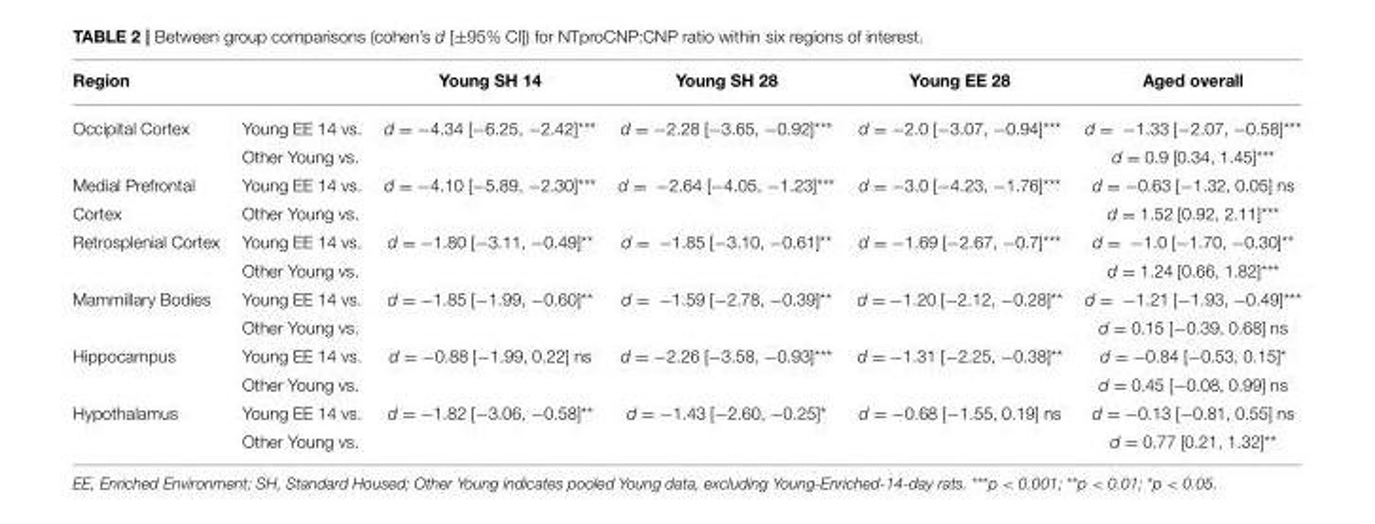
<table><thead><tr><td>Region</td><td></td><td>Young SH 14</td><td>Young SH 28</td><td>Young EE 28</td><td>Aged overall</td></tr></thead><tbody><tr><td rowspan="2">Occipital Cortex</td><td>Young EE 14 vs.</td><td>d = −4.34 [−6.25, −2.42]***</td><td>d = −2.28 [−3.65, −0.92]***</td><td>d = −2.0 [−3.07, −0.94]***</td><td>d = −1.33 [−2.07, −0.58]***</td></tr><tr><td>Other Young vs.</td><td></td><td></td><td></td><td>d = 0.9 [0.34, 1.45]***</td></tr><tr><td>Medial Prefrontal</td><td>Young EE 14 vs.</td><td>d = −4.10 [−5.89, −2.30]***</td><td>d = −2.64 [−4.05, −1.23]***</td><td>d = −3.0 [−4.23, −1.76]***</td><td>d = −0.63 [−1.32, 0.05] ns</td></tr><tr><td>Cortex</td><td>Other Young vs.</td><td></td><td></td><td></td><td>d = 1.52 [0.92, 2.11]***</td></tr><tr><td rowspan="2">Retrosplenial Cortex</td><td>Young EE 14 vs.</td><td>d = −1.80 [−3.11, −0.49]**</td><td>d = −1.85 [−3.10, −0.61]**</td><td>d = −1.69 [−2.67, −0.7]***</td><td>d = −1.0 [−1.70, −0.30]**</td></tr><tr><td>Other Young vs.</td><td></td><td></td><td></td><td>d = 1.24 [0.66, 1.82]***</td></tr><tr><td rowspan="2">Mammillary Bodies</td><td>Young EE 14 vs.</td><td>d = −1.85 [−1.99, −0.60]**</td><td>d = −1.59 [−2.78, −0.39]**</td><td>d = −1.20 [−2.12, −0.28]**</td><td>d = −1.21 [−1.93, −0.49]***</td></tr><tr><td>Other Young vs.</td><td></td><td></td><td></td><td>d = 0.15 [−0.39, 0.68] ns</td></tr><tr><td rowspan="2">Hippocampus</td><td>Young EE 14 vs.</td><td>d = −0.88 [−1.99, 0.22] ns</td><td>d = −2.26 [−3.58, −0.93]***</td><td>d = −1.31 [−2.25, −0.38]**</td><td>d = −0.84 [−0.53, 0.15]*</td></tr><tr><td>Other Young vs.</td><td></td><td></td><td></td><td>d = 0.45 [−0.08, 0.99] ns</td></tr><tr><td rowspan="2">Hypothalamus</td><td>Young EE 14 vs.</td><td>d = −1.82 [−3.06, −0.58]**</td><td>d = −1.43 [−2.60, −0.25]*</td><td>d = −0.68 [−1.55, 0.19] ns</td><td>d = −0.13 [−0.81, 0.55] ns</td></tr><tr><td>Other Young vs.</td><td></td><td></td><td></td><td>d = 0.77 [0.21, 1.32]**</td></tr></tbody></table>